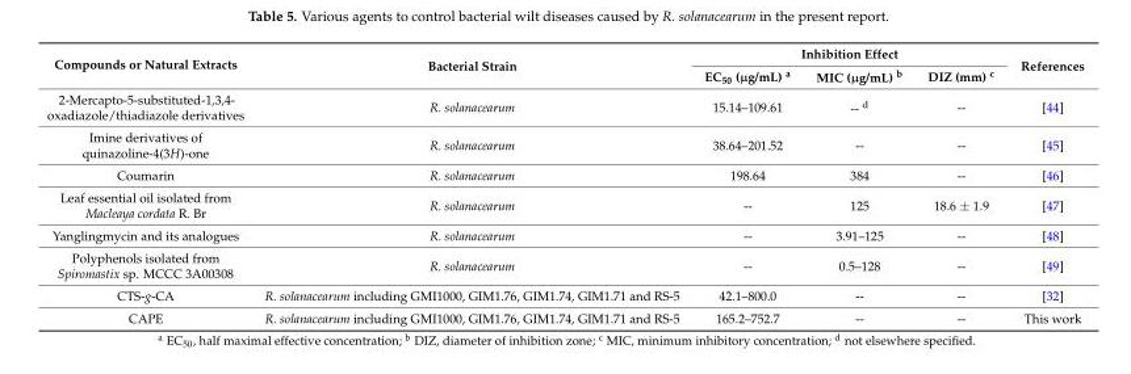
<table><thead><tr><td rowspan="2">Compounds or Natural Extracts</td><td rowspan="2">Bacterial Strain</td><td colspan="3">Inhibition Effect</td><td rowspan="2">References</td></tr><tr><td>EC<sub>50</sub> (µg/mL) <sup>a</sup></td><td>MIC (µg/mL) <sup>b</sup></td><td>DIZ (mm) <sup>c</sup></td></tr></thead><tbody><tr><td>2-Mercapto-5-substituted-1,3,4- oxadiazole/thiadiazole derivatives</td><td>R. solanacearum</td><td>15.14–109.61</td><td>-- <sup>d</sup></td><td>--</td><td>[44]</td></tr><tr><td>Imine derivatives of quinazoline-4(3H)-one</td><td>R. solanacearum</td><td>38.64–201.52</td><td>--</td><td>--</td><td>[45]</td></tr><tr><td>Coumarin</td><td>R. solanacearum</td><td>198.64</td><td>384</td><td>--</td><td>[46]</td></tr><tr><td>Leaf essential oil isolated from Macleaya cordata R. Br</td><td>R. solanacearum</td><td>--</td><td>125</td><td>18.6 ± 1.9</td><td>[47]</td></tr><tr><td>Yanglingmycin and its analogues</td><td>R. solanacearum</td><td>--</td><td>3.91–125</td><td>--</td><td>[48]</td></tr><tr><td>Polyphenols isolated from Spiromastix sp. MCCC 3A00308</td><td>R. solanacearum</td><td>--</td><td>0.5–128</td><td>--</td><td>[49]</td></tr><tr><td>CTS-g-CA</td><td>R. solanacearum including GMI1000, GIM1.76, GIM1.74, GIM1.71 and RS-5</td><td>42.1–800.0</td><td>--</td><td>--</td><td>[32]</td></tr><tr><td>CAPE</td><td>R. solanacearum including GMI1000, GIM1.76, GIM1.74, GIM1.71 and RS-5</td><td>165.2–752.7</td><td>--</td><td>--</td><td>This work</td></tr></tbody></table>